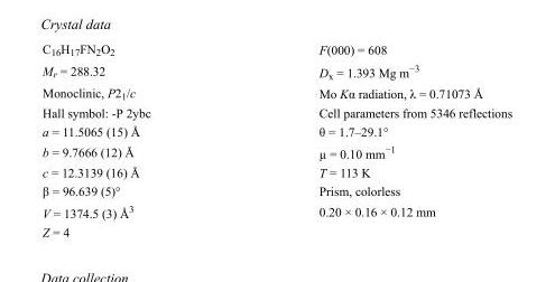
<table><tbody><tr><td>C<sub>16</sub>H<sub>17</sub>FN<sub>2</sub>O<sub>2</sub></td><td>F(000) = 608</td></tr><tr><td>M<sub>r</sub> = 288.32</td><td>D<sub>x</sub> = 1.393 Mg m<sup>−3</sup></td></tr><tr><td>Monoclinic, P2<sub>1</sub>/c</td><td>Mo Kα radiation, λ = 0.71073 Å</td></tr><tr><td>Hall symbol: -P 2ybc</td><td>Cell parameters from 5346 reflections</td></tr><tr><td>a = 11.5065 (15) Å</td><td>θ = 1.7–29.1°</td></tr><tr><td>b = 9.7666 (12) Å</td><td>µ = 0.10 mm<sup>−1</sup></td></tr><tr><td>c = 12.3139 (16) Å</td><td>T = 113 K</td></tr><tr><td>β = 96.639 (5)°</td><td>Prism, colorless</td></tr><tr><td>V = 1374.5 (3) Å<sup>3</sup></td><td>0.20 × 0.16 × 0.12 mm</td></tr><tr><td>Z = 4</td><td></td></tr></tbody></table>